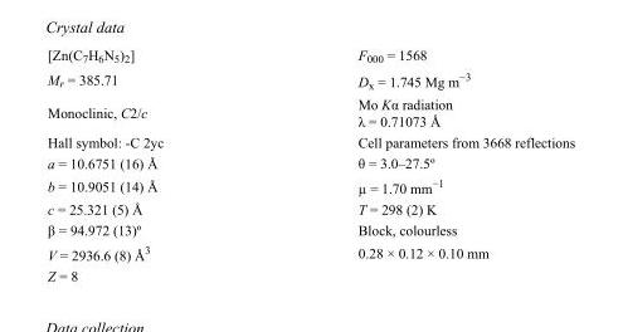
<table><tbody><tr><td>[Zn(C<sub>7</sub>H<sub>6</sub>N<sub>5</sub>)<sub>2</sub>]</td><td>F<sub>000</sub> = 1568</td></tr><tr><td>M<sub>r</sub> = 385.71</td><td>D<sub>x</sub> = 1.745 Mg m<sup>−3</sup></td></tr><tr><td>Monoclinic, C2/c</td><td>Mo Kα radiation λ = 0.71073 Å</td></tr><tr><td>Hall symbol: -C 2yc</td><td>Cell parameters from 3668 reflections</td></tr><tr><td>a = 10.6751 (16) Å</td><td>θ = 3.0–27.5º</td></tr><tr><td>b = 10.9051 (14) Å</td><td>µ = 1.70 mm<sup>−1</sup></td></tr><tr><td>c = 25.321 (5) Å</td><td>T = 298 (2) K</td></tr><tr><td>β = 94.972 (13)º</td><td>Block, colourless</td></tr><tr><td>V = 2936.6 (8) Å<sup>3</sup></td><td>0.28 × 0.12 × 0.10 mm</td></tr><tr><td>Z = 8</td><td></td></tr></tbody></table>